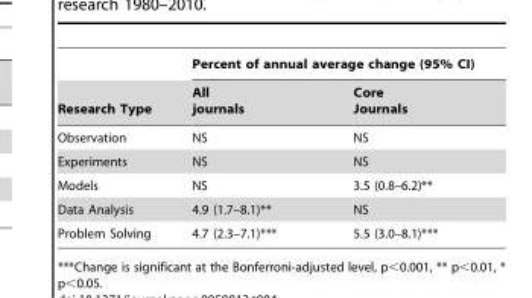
<table><thead><tr><td rowspan="2">Research Type</td><td colspan="2">Percent of annual average change (95% CI)</td></tr><tr><td>All journals</td><td>Core Journals</td></tr></thead><tbody><tr><td>Observation</td><td>NS</td><td>NS</td></tr><tr><td>Experiments</td><td>NS</td><td>NS</td></tr><tr><td>Models</td><td>NS</td><td>3.5 (0.8–6.2)**</td></tr><tr><td>Data Analysis</td><td>4.9 (1.7–8.1)**</td><td>NS</td></tr><tr><td>Problem Solving</td><td>4.7 (2.3–7.1)***</td><td>5.5 (3.0–8.1)***</td></tr></tbody></table>